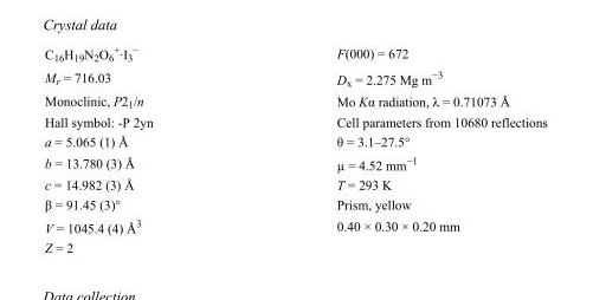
<table><tbody><tr><td>C<sub>16</sub>H<sub>19</sub>N<sub>2</sub>O<sub>6</sub> <sup>+</sup>·I<sub>3</sub> <sup>−</sup></td><td>F(000) = 672</td></tr><tr><td>M<sub>r</sub> = 716.03</td><td>D<sub>x</sub> = 2.275 Mg m<sup>−3</sup></td></tr><tr><td>Monoclinic, P2<sub>1</sub>/n</td><td>Mo Kα radiation, λ = 0.71073 Å</td></tr><tr><td>Hall symbol: -P 2yn</td><td>Cell parameters from 10680 reflections</td></tr><tr><td>a = 5.065 (1) Å</td><td>θ = 3.1–27.5°</td></tr><tr><td>b = 13.780 (3) Å</td><td>µ = 4.52 mm<sup>−1</sup></td></tr><tr><td>c = 14.982 (3) Å</td><td>T = 293 K</td></tr><tr><td>β = 91.45 (3)°</td><td>Prism, yellow</td></tr><tr><td>V = 1045.4 (4) Å<sup>3</sup></td><td>0.40 × 0.30 × 0.20 mm</td></tr><tr><td>Z = 2</td><td></td></tr></tbody></table>